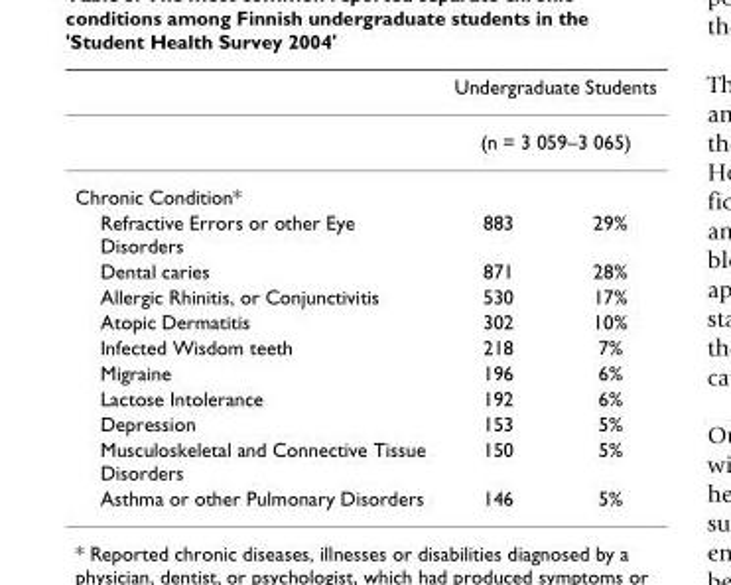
<table><thead><tr><td rowspan="2"></td><td rowspan="2" colspan="2">Undergraduate Students (n = 3 059–3 065)</td></tr><tr></tr><tr><td colspan="3">Chronic Condition*</td></tr><tr><td>Refractive Errors or other Eye Disorders</td><td>883</td><td>29%</td></tr></thead><tbody><tr><td>Dental caries</td><td>871</td><td>28%</td></tr><tr><td>Allergic Rhinitis, or Conjunctivitis</td><td>530</td><td>17%</td></tr><tr><td>Atopic Dermatitis</td><td>302</td><td>10%</td></tr><tr><td>Infected Wisdom teeth</td><td>218</td><td>7%</td></tr><tr><td>Migraine</td><td>196</td><td>6%</td></tr><tr><td>Lactose Intolerance</td><td>192</td><td>6%</td></tr><tr><td>Depression</td><td>153</td><td>5%</td></tr><tr><td>Musculoskeletal and Connective Tissue Disorders</td><td>150</td><td>5%</td></tr><tr><td>Asthma or other Pulmonary Disorders</td><td>146</td><td>5%</td></tr></tbody></table>